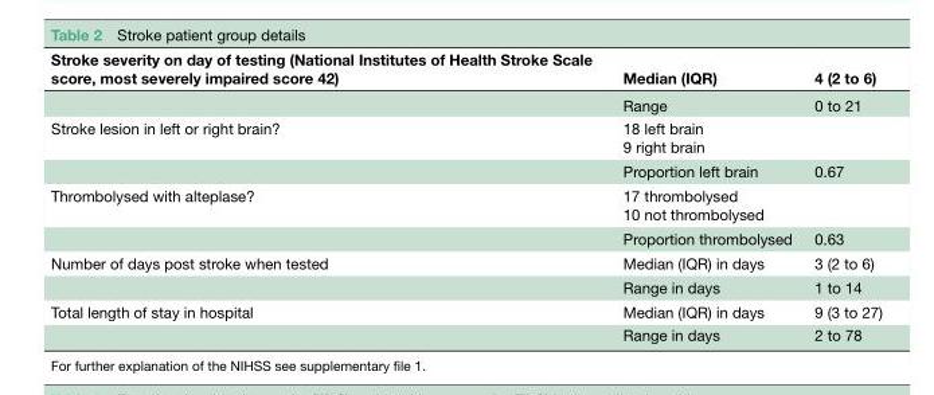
<table><thead><tr><td>Stroke severity on day of testing (National Institutes of Health Stroke Scale score, most severely impaired score 42)</td><td>Median (IQR)</td><td>4 (2 to 6)</td></tr></thead><tbody><tr><td></td><td>Range</td><td>0 to 21</td></tr><tr><td rowspan="2">Stroke lesion in left or right brain?</td><td colspan="2">18 left brain 9 right brain</td></tr><tr><td>Proportion left brain</td><td>0.67</td></tr><tr><td rowspan="2">Thrombolysed with alteplase?</td><td colspan="2">17 thrombolysed 10 not thrombolysed</td></tr><tr><td>Proportion thrombolysed</td><td>0.63</td></tr><tr><td rowspan="2">Number of days post stroke when tested</td><td>Median (IQR) in days</td><td>3 (2 to 6)</td></tr><tr><td>Range in days</td><td>1 to 14</td></tr><tr><td rowspan="2">Total length of stay in hospital</td><td>Median (IQR) in days</td><td>9 (3 to 27)</td></tr><tr><td>Range in days</td><td>2 to 78</td></tr></tbody></table>